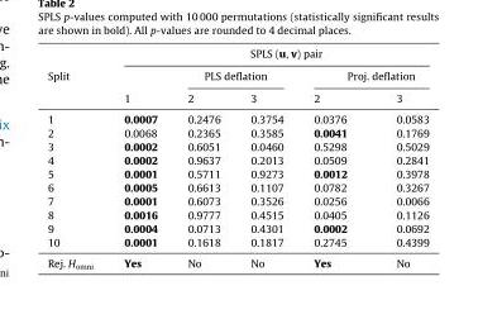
<table><thead><tr><td rowspan="3">Split</td><td colspan="5">SPLS (u, v) pair</td></tr><tr><td rowspan="2">1</td><td colspan="2">PLS deflation</td><td colspan="2">Proj. deflation</td></tr><tr><td>2</td><td>3</td><td>2</td><td>3</td></tr></thead><tbody><tr><td>1</td><td>0.0007</td><td>0.2476</td><td>0.3754</td><td>0.0376</td><td>0.0583</td></tr><tr><td>2</td><td>0.0068</td><td>0.2365</td><td>0.3585</td><td>0.0041</td><td>0.1769</td></tr><tr><td>3</td><td>0.0002</td><td>0.6051</td><td>0.0460</td><td>0.5298</td><td>0.5029</td></tr><tr><td>4</td><td>0.0002</td><td>0.9637</td><td>0.2013</td><td>0.0509</td><td>0.2841</td></tr><tr><td>5</td><td>0.0001</td><td>0.5711</td><td>0.9273</td><td>0.0012</td><td>0.3978</td></tr><tr><td>6</td><td>0.0005</td><td>0.6613</td><td>0.1107</td><td>0.0782</td><td>0.3267</td></tr><tr><td>7</td><td>0.0001</td><td>0.6073</td><td>0.3526</td><td>0.0256</td><td>0.0066</td></tr><tr><td>8</td><td>0.0016</td><td>0.9777</td><td>0.4515</td><td>0.0405</td><td>0.1126</td></tr><tr><td>9</td><td>0.0004</td><td>0.0713</td><td>0.4301</td><td>0.0002</td><td>0.0692</td></tr><tr><td>10</td><td>0.0001</td><td>0.1618</td><td>0.1817</td><td>0.2745</td><td>0.4399</td></tr><tr><td>Rej. H<sub>omni</sub></td><td>Yes</td><td>No</td><td>No</td><td>Yes</td><td>No</td></tr></tbody></table>